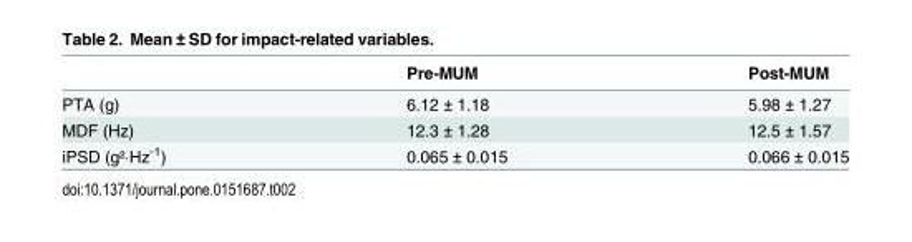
<table><thead><tr><td></td><td>Pre-MUM</td><td>Post-MUM</td></tr></thead><tbody><tr><td>PTA (g)</td><td>6.12 ± 1.18</td><td>5.98 ± 1.27</td></tr><tr><td>MDF (Hz)</td><td>12.3 ± 1.28</td><td>12.5 ± 1.57</td></tr><tr><td>iPSD (g²·Hz<sup>-1</sup>)</td><td>0.065 ± 0.015</td><td>0.066 ± 0.015</td></tr></tbody></table>